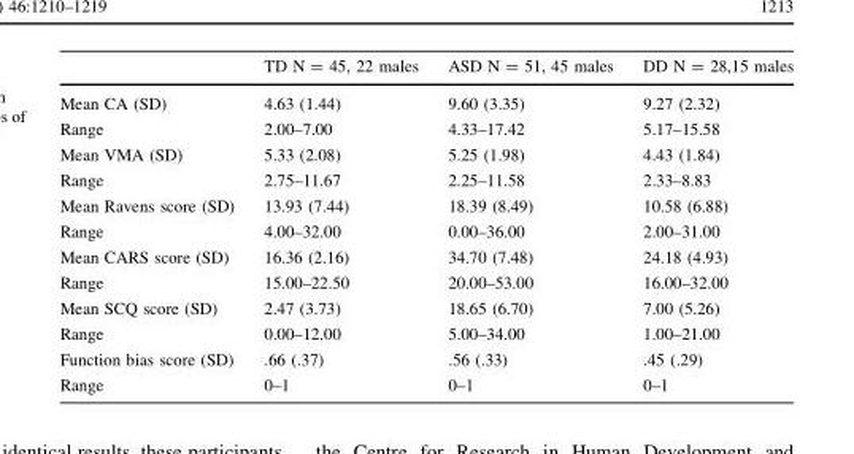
<table><thead><tr><td></td><td>TD N = 45, 22 males</td><td>ASD N = 51, 45 males</td><td>DD N = 28,15 males</td></tr></thead><tbody><tr><td>Mean CA (SD)</td><td>4.63 (1.44)</td><td>9.60 (3.35)</td><td>9.27 (2.32)</td></tr><tr><td>Range</td><td>2.00–7.00</td><td>4.33–17.42</td><td>5.17–15.58</td></tr><tr><td>Mean VMA (SD)</td><td>5.33 (2.08)</td><td>5.25 (1.98)</td><td>4.43 (1.84)</td></tr><tr><td>Range</td><td>2.75–11.67</td><td>2.25–11.58</td><td>2.33–8.83</td></tr><tr><td>Mean Ravens score (SD)</td><td>13.93 (7.44)</td><td>18.39 (8.49)</td><td>10.58 (6.88)</td></tr><tr><td>Range</td><td>4.00–32.00</td><td>0.00–36.00</td><td>2.00–31.00</td></tr><tr><td>Mean CARS score (SD)</td><td>16.36 (2.16)</td><td>34.70 (7.48)</td><td>24.18 (4.93)</td></tr><tr><td>Range</td><td>15.00–22.50</td><td>20.00–53.00</td><td>16.00–32.00</td></tr><tr><td>Mean SCQ score (SD)</td><td>2.47 (3.73)</td><td>18.65 (6.70)</td><td>7.00 (5.26)</td></tr><tr><td>Range</td><td>0.00–12.00</td><td>5.00–34.00</td><td>1.00–21.00</td></tr><tr><td>Function bias score (SD)</td><td>.66 (.37)</td><td>.56 (.33)</td><td>.45 (.29)</td></tr><tr><td>Range</td><td>0–1</td><td>0–1</td><td>0–1</td></tr></tbody></table>